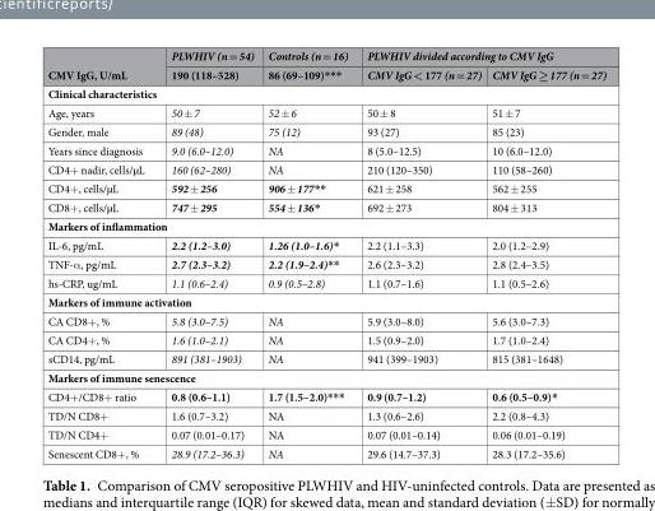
<table><thead><tr><td rowspan="2">CMV IgG, U/mL</td><td rowspan="2">PLWHIV (n = 54) 190 (118–528)</td><td rowspan="2">Controls (n = 16) 86 (69–109)***</td><td colspan="2">PLWHIV divided according to CMV IgG</td></tr><tr><td>CMV IgG &lt; 177 (n = 27)</td><td>CMV IgG ≥ 177 (n = 27)</td></tr></thead><tbody><tr><td colspan="5">Clinical characteristics</td></tr><tr><td>Age, years</td><td>50 ± 7</td><td>52 ± 6</td><td>50 ± 8</td><td>51 ± 7</td></tr><tr><td>Gender, male</td><td>89 (48)</td><td>75 (12)</td><td>93 (27)</td><td>85 (23)</td></tr><tr><td>Years since diagnosis</td><td>9.0 (6.0–12.0)</td><td>NA</td><td>8 (5.0–12.5)</td><td>10 (6.0–12.0)</td></tr><tr><td>CD4+ nadir, cells/µL</td><td>160 (62–280)</td><td>NA</td><td>210 (120–350)</td><td>110 (58–260)</td></tr><tr><td>CD4+, cells/µL</td><td>592 ± 256</td><td>906 ± 177**</td><td>621 ± 258</td><td>562 ± 255</td></tr><tr><td>CD8+, cells/µL</td><td>747 ± 295</td><td>554 ± 136*</td><td>692 ± 273</td><td>804 ± 313</td></tr><tr><td colspan="5">Markers of inflammation</td></tr><tr><td>IL-6, pg/mL</td><td>2.2 (1.2–3.0)</td><td>1.26 (1.0–1.6)*</td><td>2.2 (1.1–3.3)</td><td>2.0 (1.2–2.9)</td></tr><tr><td>TNF-α, pg/mL</td><td>2.7 (2.3–3.2)</td><td>2.2 (1.9–2.4)**</td><td>2.6 (2.3–3.2)</td><td>2.8 (2.4–3.5)</td></tr><tr><td>hs-CRP, ug/mL</td><td>1.1 (0.6–2.4)</td><td>0.9 (0.5–2.8)</td><td>1.1 (0.7–1.6)</td><td>1.1 (0.5–2.6)</td></tr><tr><td colspan="5">Markers of immune activation</td></tr><tr><td>CA CD8+, %</td><td>5.8 (3.0–7.5)</td><td>NA</td><td>5.9 (3.0–8.0)</td><td>5.6 (3.0–7.3)</td></tr><tr><td>CA CD4+, %</td><td>1.6 (1.0–2.1)</td><td>NA</td><td>1.5 (0.9–2.0)</td><td>1.7 (1.0–2.4)</td></tr><tr><td>sCD14, pg/mL</td><td>891 (381–1903)</td><td>NA</td><td>941 (399–1903)</td><td>815 (381–1648)</td></tr><tr><td colspan="5">Markers of immune senescence</td></tr><tr><td>CD4+/CD8+ ratio</td><td>0.8 (0.6–1.1)</td><td>1.7 (1.5–2.0)***</td><td>0.9 (0.7–1.2)</td><td>0.6 (0.5–0.9)*</td></tr><tr><td>TD/N CD8+</td><td>1.6 (0.7–3.2)</td><td>NA</td><td>1.3 (0.6–2.6)</td><td>2.2 (0.8–4.3)</td></tr><tr><td>TD/N CD4+</td><td>0.07 (0.01–0.17)</td><td>NA</td><td>0.07 (0.01–0.14)</td><td>0.06 (0.01–0.19)</td></tr><tr><td>Senescent CD8+, %</td><td>28.9 (17.2–36.3)</td><td>NA</td><td>29.6 (14.7–37.3)</td><td>28.3 (17.2–35.6)</td></tr></tbody></table>